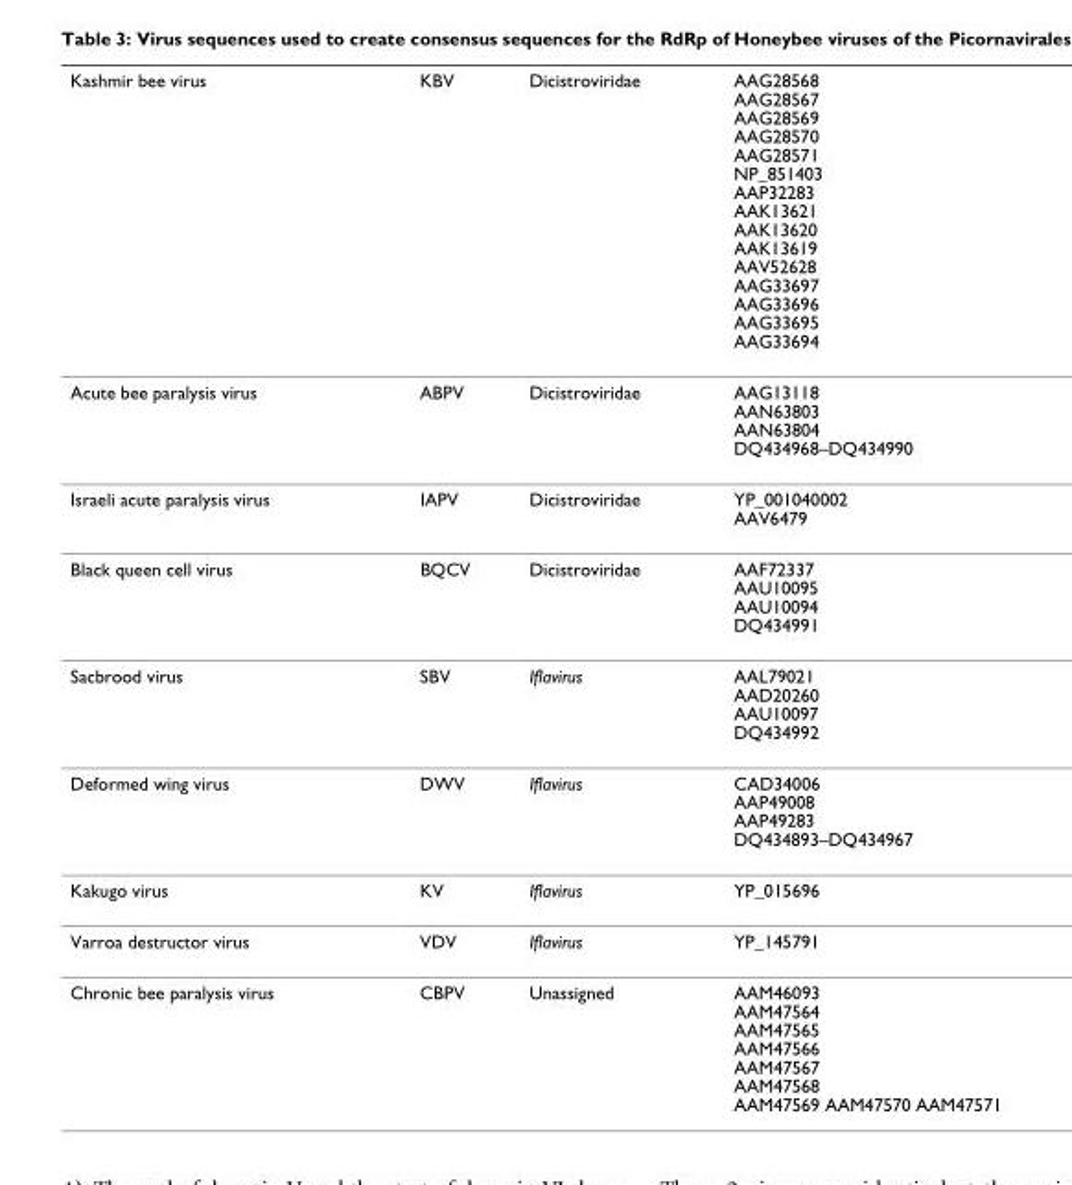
<table><thead><tr><td>Kashmir bee virus</td><td>KBV</td><td>Dicistroviridae</td><td>AAG28568 AAG28567 AAG28569 AAG28570 AAG28571 NP_851403 AAP32283 AAK13621 AAK13620 AAK13619 AAV52628 AAG33697 AAG33696 AAG33695 AAG33694</td></tr></thead><tbody><tr><td>Acute bee paralysis virus</td><td>ABPV</td><td>Dicistroviridae</td><td>AAG13118 AAN63803 AAN63804 DQ434968–DQ434990</td></tr><tr><td>Israeli acute paralysis virus</td><td>IAPV</td><td>Dicistroviridae</td><td>YP_001040002 AAV6479</td></tr><tr><td>Black queen cell virus</td><td>BQCV</td><td>Dicistroviridae</td><td>AAF72337 AAU10095 AAU10094 DQ434991</td></tr><tr><td>Sacbrood virus</td><td>SBV</td><td>Iflavirus</td><td>AAL79021 AAD20260 AAU10097 DQ434992</td></tr><tr><td>Deformed wing virus</td><td>DWV</td><td>Iflavirus</td><td>CAD34006 AAP49008 AAP49283 DQ434893–DQ434967</td></tr><tr><td>Kakugo virus</td><td>KV</td><td>Iflavirus</td><td>YP_015696</td></tr><tr><td>Varroa destructor virus</td><td>VDV</td><td>Iflavirus</td><td>YP_145791</td></tr><tr><td>Chronic bee paralysis virus</td><td>CBPV</td><td>Unassigned</td><td>AAM46093 AAM47564 AAM47565 AAM47566 AAM47567 AAM47568 AAM47569 AAM47570 AAM47571</td></tr></tbody></table>